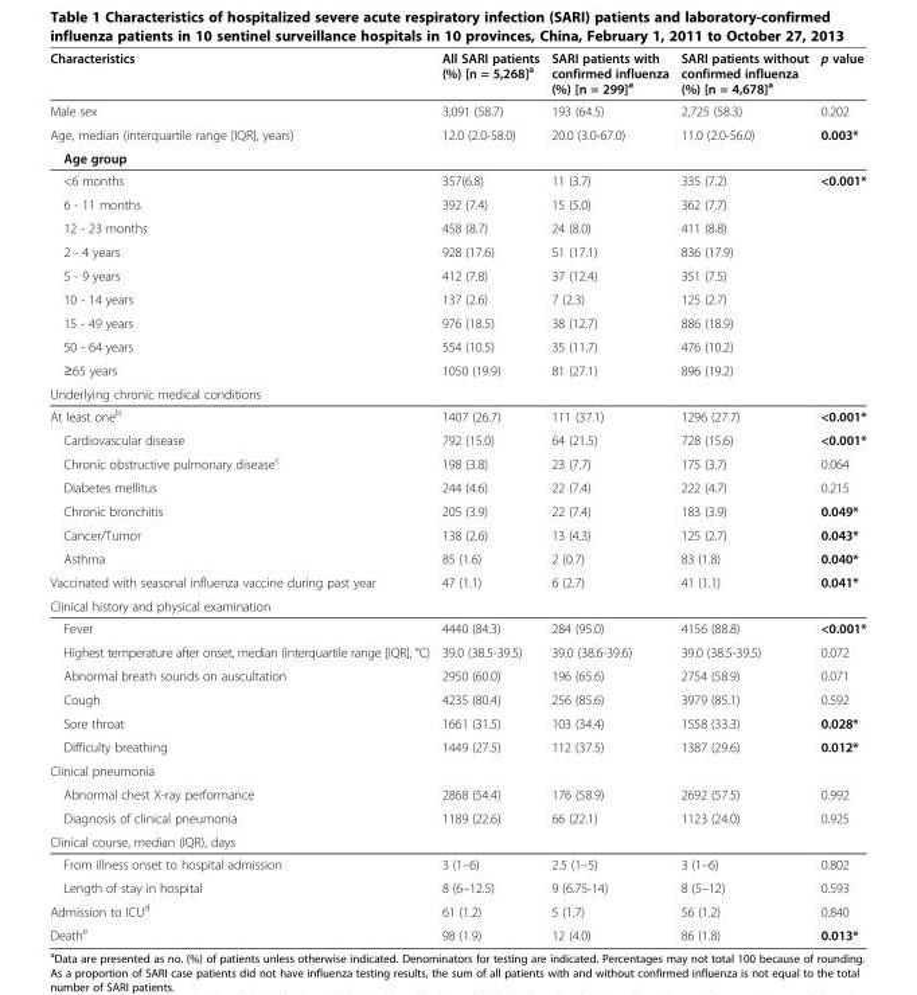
<table><thead><tr><td>Characteristics</td><td>All SARI patients (%) [n = 5,268]<sup>a</sup></td><td>SARI patients with confirmed influenza (%) [n = 299]<sup>a</sup></td><td>SARI patients without confirmed influenza (%) [n = 4,678]<sup>a</sup></td><td>p value</td></tr></thead><tbody><tr><td>Male sex</td><td>3,091 (58.7)</td><td>193 (64.5)</td><td>2,725 (58.3)</td><td>0.202</td></tr><tr><td>Age, median (interquartile range [IQR], years)</td><td>12.0 (2.0-58.0)</td><td>20.0 (3.0-67.0)</td><td>11.0 (2.0-56.0)</td><td>0.003*</td></tr><tr><td colspan="5">Age group</td></tr><tr><td>&lt;6 months</td><td>357(6.8)</td><td>11 (3.7)</td><td>335 (7.2)</td><td rowspan="9">&lt;0.001*</td></tr><tr><td>6 - 11 months</td><td>392 (7.4)</td><td>15 (5.0)</td><td>362 (7.7)</td></tr><tr><td>12 - 23 months</td><td>458 (8.7)</td><td>24 (8.0)</td><td>411 (8.8)</td></tr><tr><td>2 - 4 years</td><td>928 (17.6)</td><td>51 (17.1)</td><td>836 (17.9)</td></tr><tr><td>5 - 9 years</td><td>412 (7.8)</td><td>37 (12.4)</td><td>351 (7.5)</td></tr><tr><td>10 - 14 years</td><td>137 (2.6)</td><td>7 (2.3)</td><td>125 (2.7)</td></tr><tr><td>15 - 49 years</td><td>976 (18.5)</td><td>38 (12.7)</td><td>886 (18.9)</td></tr><tr><td>50 - 64 years</td><td>554 (10.5)</td><td>35 (11.7)</td><td>476 (10.2)</td></tr><tr><td>≥65 years</td><td>1050 (19.9)</td><td>81 (27.1)</td><td>896 (19.2)</td></tr><tr><td colspan="5">Underlying chronic medical conditions</td></tr><tr><td>At least one<sup>b</sup></td><td>1407 (26.7)</td><td>111 (37.1)</td><td>1296 (27.7)</td><td>&lt;0.001*</td></tr><tr><td>Cardiovascular disease</td><td>792 (15.0)</td><td>64 (21.5)</td><td>728 (15.6)</td><td>&lt;0.001*</td></tr><tr><td>Chronic obstructive pulmonary disease<sup>c</sup></td><td>198 (3.8)</td><td>23 (7.7)</td><td>175 (3.7)</td><td>0.064</td></tr><tr><td>Diabetes mellitus</td><td>244 (4.6)</td><td>22 (7.4)</td><td>222 (4.7)</td><td>0.215</td></tr><tr><td>Chronic bronchitis</td><td>205 (3.9)</td><td>22 (7.4)</td><td>183 (3.9)</td><td>0.049*</td></tr><tr><td>Cancer/Tumor</td><td>138 (2.6)</td><td>13 (4.3)</td><td>125 (2.7)</td><td>0.043*</td></tr><tr><td>Asthma</td><td>85 (1.6)</td><td>2 (0.7)</td><td>83 (1.8)</td><td>0.040*</td></tr><tr><td>Vaccinated with seasonal influenza vaccine during past year</td><td>47 (1.1)</td><td>6 (2.7)</td><td>41 (1.1)</td><td>0.041*</td></tr><tr><td colspan="5">Clinical history and physical examination</td></tr><tr><td>Fever</td><td>4440 (84.3)</td><td>284 (95.0)</td><td>4156 (88.8)</td><td>&lt;0.001*</td></tr><tr><td>Highest temperature after onset, median (interquartile range [IQR], °C)</td><td>39.0 (38.5-39.5)</td><td>39.0 (38.6-39.6)</td><td>39.0 (38.5-39.5)</td><td>0.072</td></tr><tr><td>Abnormal breath sounds on auscultation</td><td>2950 (60.0)</td><td>196 (65.6)</td><td>2754 (58.9)</td><td>0.071</td></tr><tr><td>Cough</td><td>4235 (80.4)</td><td>256 (85.6)</td><td>3979 (85.1)</td><td>0.592</td></tr><tr><td>Sore throat</td><td>1661 (31.5)</td><td>103 (34.4)</td><td>1558 (33.3)</td><td>0.028*</td></tr><tr><td>Difficulty breathing</td><td>1449 (27.5)</td><td>112 (37.5)</td><td>1387 (29.6)</td><td>0.012*</td></tr><tr><td colspan="5">Clinical pneumonia</td></tr><tr><td>Abnormal chest X-ray performance</td><td>2868 (54.4)</td><td>176 (58.9)</td><td>2692 (57.5)</td><td>0.992</td></tr><tr><td>Diagnosis of clinical pneumonia</td><td>1189 (22.6)</td><td>66 (22.1)</td><td>1123 (24.0)</td><td>0.925</td></tr><tr><td colspan="5">Clinical course, median (IQR), days</td></tr><tr><td>From illness onset to hospital admission</td><td>3 (1–6)</td><td>2.5 (1–5)</td><td>3 (1–6)</td><td>0.802</td></tr><tr><td>Length of stay in hospital</td><td>8 (6–12.5)</td><td>9 (6.75-14)</td><td>8 (5–12)</td><td>0.593</td></tr><tr><td>Admission to ICU<sup>d</sup></td><td>61 (1.2)</td><td>5 (1.7)</td><td>56 (1.2)</td><td>0.840</td></tr><tr><td>Death<sup>e</sup></td><td>98 (1.9)</td><td>12 (4.0)</td><td>86 (1.8)</td><td>0.013*</td></tr></tbody></table>